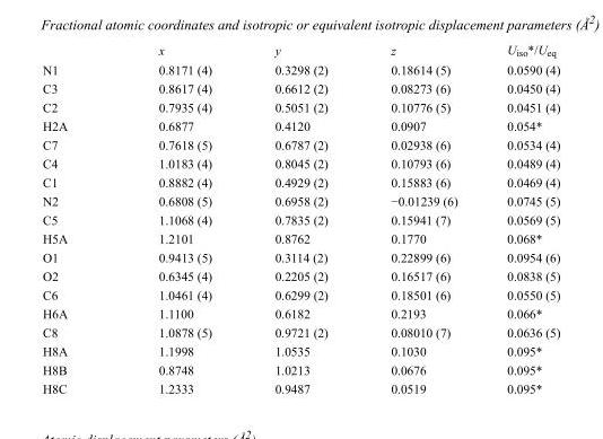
<table><thead><tr><td></td><td>x</td><td>y</td><td>z</td><td>U<sub>iso</sub>*/U<sub>eq</sub></td></tr></thead><tbody><tr><td>N1</td><td>0.8171 (4)</td><td>0.3298 (2)</td><td>0.18614 (5)</td><td>0.0590 (4)</td></tr><tr><td>C3</td><td>0.8617 (4)</td><td>0.6612 (2)</td><td>0.08273 (6)</td><td>0.0450 (4)</td></tr><tr><td>C2</td><td>0.7935 (4)</td><td>0.5051 (2)</td><td>0.10776 (5)</td><td>0.0451 (4)</td></tr><tr><td>H2A</td><td>0.6877</td><td>0.4120</td><td>0.0907</td><td>0.054*</td></tr><tr><td>C7</td><td>0.7618 (5)</td><td>0.6787 (2)</td><td>0.02938 (6)</td><td>0.0534 (4)</td></tr><tr><td>C4</td><td>1.0183 (4)</td><td>0.8045 (2)</td><td>0.10793 (6)</td><td>0.0489 (4)</td></tr><tr><td>C1</td><td>0.8882 (4)</td><td>0.4929 (2)</td><td>0.15883 (6)</td><td>0.0469 (4)</td></tr><tr><td>N2</td><td>0.6808 (5)</td><td>0.6958 (2)</td><td>−0.01239 (6)</td><td>0.0745 (5)</td></tr><tr><td>C5</td><td>1.1068 (4)</td><td>0.7835 (2)</td><td>0.15941 (7)</td><td>0.0569 (5)</td></tr><tr><td>H5A</td><td>1.2101</td><td>0.8762</td><td>0.1770</td><td>0.068*</td></tr><tr><td>O1</td><td>0.9413 (5)</td><td>0.3114 (2)</td><td>0.22899 (6)</td><td>0.0954 (6)</td></tr><tr><td>O2</td><td>0.6345 (4)</td><td>0.2205 (2)</td><td>0.16517 (6)</td><td>0.0838 (5)</td></tr><tr><td>C6</td><td>1.0461 (4)</td><td>0.6299 (2)</td><td>0.18501 (6)</td><td>0.0550 (5)</td></tr><tr><td>H6A</td><td>1.1100</td><td>0.6182</td><td>0.2193</td><td>0.066*</td></tr><tr><td>C8</td><td>1.0878 (5)</td><td>0.9721 (2)</td><td>0.08010 (7)</td><td>0.0636 (5)</td></tr><tr><td>H8A</td><td>1.1998</td><td>1.0535</td><td>0.1030</td><td>0.095*</td></tr><tr><td>H8B</td><td>0.8748</td><td>1.0213</td><td>0.0676</td><td>0.095*</td></tr><tr><td>H8C</td><td>1.2333</td><td>0.9487</td><td>0.0519</td><td>0.095*</td></tr></tbody></table>